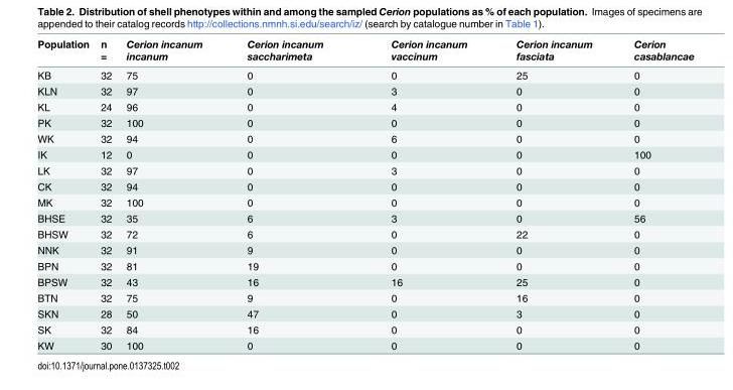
<table><thead><tr><td>Population</td><td>n =</td><td>Cerion incanum incanum</td><td>Cerion incanum saccharimeta</td><td>Cerion incanum vaccinum</td><td>Cerion incanum fasciata</td><td>Cerion casablancae</td></tr></thead><tbody><tr><td>KB</td><td>32</td><td>75</td><td>0</td><td>0</td><td>25</td><td>0</td></tr><tr><td>KLN</td><td>32</td><td>97</td><td>0</td><td>3</td><td>0</td><td>0</td></tr><tr><td>KL</td><td>24</td><td>96</td><td>0</td><td>4</td><td>0</td><td>0</td></tr><tr><td>PK</td><td>32</td><td>100</td><td>0</td><td>0</td><td>0</td><td>0</td></tr><tr><td>WK</td><td>32</td><td>94</td><td>0</td><td>6</td><td>0</td><td>0</td></tr><tr><td>IK</td><td>12</td><td>0</td><td>0</td><td>0</td><td>0</td><td>100</td></tr><tr><td>LK</td><td>32</td><td>97</td><td>0</td><td>3</td><td>0</td><td>0</td></tr><tr><td>CK</td><td>32</td><td>94</td><td>0</td><td>0</td><td>0</td><td>0</td></tr><tr><td>MK</td><td>32</td><td>100</td><td>0</td><td>0</td><td>0</td><td>0</td></tr><tr><td>BHSE</td><td>32</td><td>35</td><td>6</td><td>3</td><td>0</td><td>56</td></tr><tr><td>BHSW</td><td>32</td><td>72</td><td>6</td><td>0</td><td>22</td><td>0</td></tr><tr><td>NNK</td><td>32</td><td>91</td><td>9</td><td>0</td><td>0</td><td>0</td></tr><tr><td>BPN</td><td>32</td><td>81</td><td>19</td><td>0</td><td>0</td><td>0</td></tr><tr><td>BPSW</td><td>32</td><td>43</td><td>16</td><td>16</td><td>25</td><td>0</td></tr><tr><td>BTN</td><td>32</td><td>75</td><td>9</td><td>0</td><td>16</td><td>0</td></tr><tr><td>SKN</td><td>28</td><td>50</td><td>47</td><td>0</td><td>3</td><td>0</td></tr><tr><td>SK</td><td>32</td><td>84</td><td>16</td><td>0</td><td>0</td><td>0</td></tr><tr><td>KW</td><td>30</td><td>100</td><td>0</td><td>0</td><td>0</td><td>0</td></tr></tbody></table>